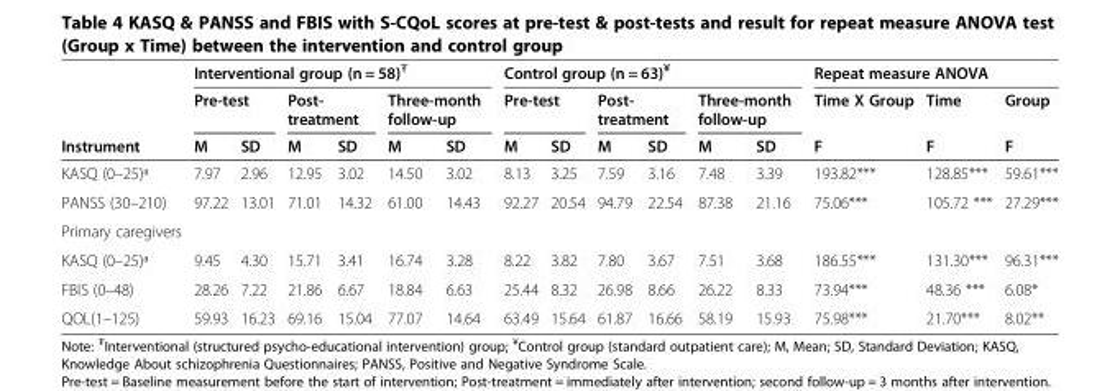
<table><thead><tr><td rowspan="3">Instrument</td><td colspan="6">Interventional group (n = 58)<sup>₮</sup></td><td colspan="6">Control group (n = 63)<sup>¥</sup></td><td colspan="3">Repeat measure ANOVA</td></tr><tr><td colspan="2">Pre-test</td><td colspan="2">Post- treatment</td><td colspan="2">Three-month follow-up</td><td colspan="2">Pre-test</td><td colspan="2">Post- treatment</td><td colspan="2">Three-month follow-up</td><td rowspan="2">Time X Group F</td><td rowspan="2">Time F</td><td rowspan="2">Group F</td></tr><tr><td>M</td><td>SD</td><td>M</td><td>SD</td><td>M</td><td>SD</td><td>M</td><td>SD</td><td>M</td><td>SD</td><td>M</td><td>SD</td></tr></thead><tbody><tr><td>KASQ (0–25)ª</td><td>7.97</td><td>2.96</td><td>12.95</td><td>3.02</td><td>14.50</td><td>3.02</td><td>8.13</td><td>3.25</td><td>7.59</td><td>3.16</td><td>7.48</td><td>3.39</td><td>193.82***</td><td>128.85***</td><td>59.61***</td></tr><tr><td>PANSS (30–210)</td><td>97.22</td><td>13.01</td><td>71.01</td><td>14.32</td><td>61.00</td><td>14.43</td><td>92.27</td><td>20.54</td><td>94.79</td><td>22.54</td><td>87.38</td><td>21.16</td><td>75.06***</td><td>105.72 ***</td><td>27.29***</td></tr><tr><td colspan="16">Primary caregivers</td></tr><tr><td>KASQ (0–25)ª</td><td>9.45</td><td>4.30</td><td>15.71</td><td>3.41</td><td>16.74</td><td>3.28</td><td>8.22</td><td>3.82</td><td>7.80</td><td>3.67</td><td>7.51</td><td>3.68</td><td>186.55***</td><td>131.30***</td><td>96.31***</td></tr><tr><td>FBIS (0–48)</td><td>28.26</td><td>7.22</td><td>21.86</td><td>6.67</td><td>18.84</td><td>6.63</td><td>25.44</td><td>8.32</td><td>26.98</td><td>8.66</td><td>26.22</td><td>8.33</td><td>73.94***</td><td>48.36 ***</td><td>6.08*</td></tr><tr><td>QOL(1–125)</td><td>59.93</td><td>16.23</td><td>69.16</td><td>15.04</td><td>77.07</td><td>14.64</td><td>63.49</td><td>15.64</td><td>61.87</td><td>16.66</td><td>58.19</td><td>15.93</td><td>75.98***</td><td>21.70***</td><td>8.02**</td></tr></tbody></table>